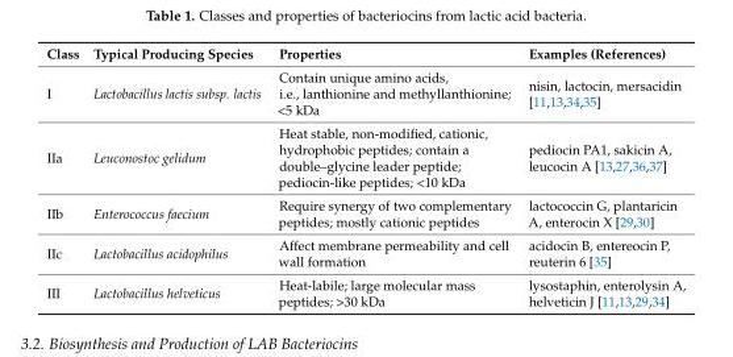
<table><thead><tr><td>Class</td><td>Typical Producing Species</td><td>Properties</td><td>Examples (References)</td></tr></thead><tbody><tr><td>I</td><td>Lactobacillus lactis subsp. lactis</td><td>Contain unique amino acids, i.e., lanthionine and methyllanthionine; &lt;5 kDa</td><td>nisin, lactocin, mersacidin [11,13,34,35]</td></tr><tr><td>IIa</td><td>Leuconostoc gelidum</td><td>Heat stable, non-modified, cationic, hydrophobic peptides; contain a double–glycine leader peptide; pediocin-like peptides; &lt;10 kDa</td><td>pediocin PA1, sakicin A, leucocin A [13,27,36,37]</td></tr><tr><td>IIb</td><td>Enterococcus faecium</td><td>Require synergy of two complementary peptides; mostly cationic peptides</td><td>lactococcin G, plantaricin A, enterocin X [29,30]</td></tr><tr><td>IIc</td><td>Lactobacillus acidophilus</td><td>Affect membrane permeability and cell wall formation</td><td>acidocin B, entereocin P, reuterin 6 [35]</td></tr><tr><td>III</td><td>Lactobacillus helveticus</td><td>Heat-labile; large molecular mass peptides; &gt;30 kDa</td><td>lysostaphin, enterolysin A, helveticin J [11,13,29,34]</td></tr></tbody></table>